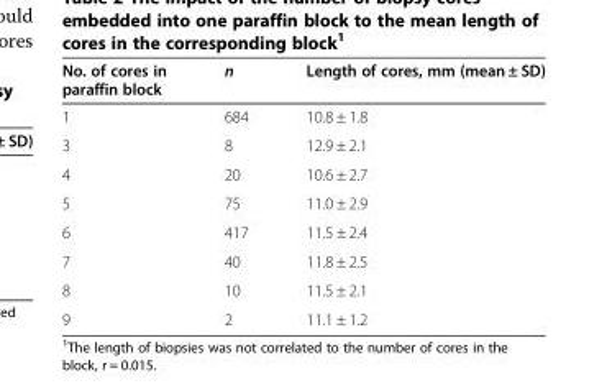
<table><thead><tr><td>No. of cores in paraffin block</td><td>n</td><td>Length of cores, mm (mean ± SD)</td></tr></thead><tbody><tr><td>1</td><td>684</td><td>10.8 ± 1.8</td></tr><tr><td>3</td><td>8</td><td>12.9 ± 2.1</td></tr><tr><td>4</td><td>20</td><td>10.6 ± 2.7</td></tr><tr><td>5</td><td>75</td><td>11.0 ± 2.9</td></tr><tr><td>6</td><td>417</td><td>11.5 ± 2.4</td></tr><tr><td>7</td><td>40</td><td>11.8 ± 2.5</td></tr><tr><td>8</td><td>10</td><td>11.5 ± 2.1</td></tr><tr><td>9</td><td>2</td><td>11.1 ± 1.2</td></tr></tbody></table>